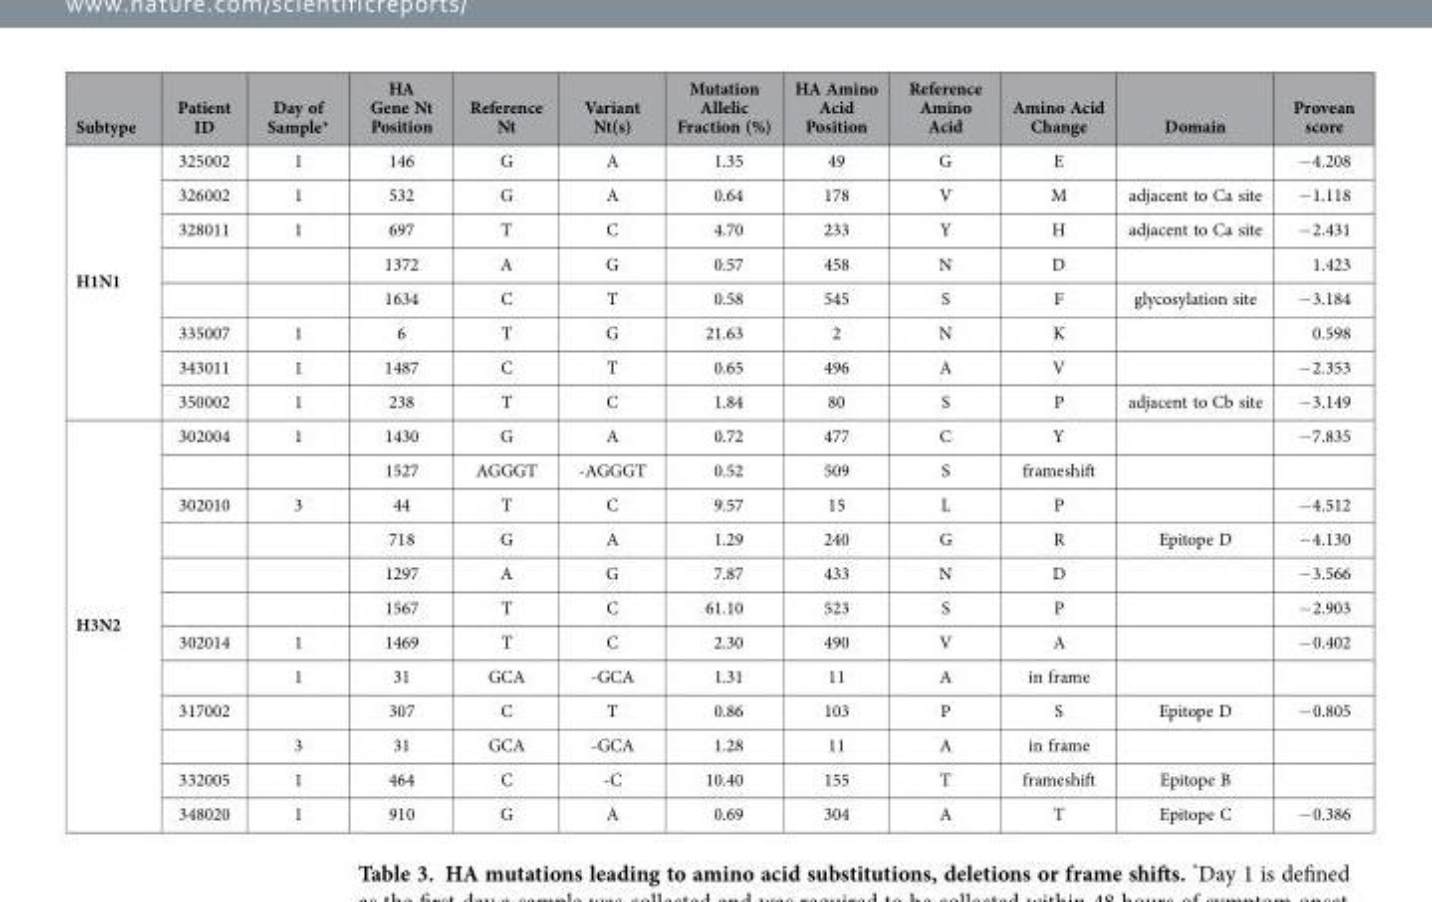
<table><thead><tr><td>Subtype</td><td>Patient ID</td><td>Day of Sample*</td><td>HA Gene Nt Position</td><td>Reference Nt</td><td>Variant Nt(s)</td><td>Mutation Allelic Fraction (%)</td><td>HA Amino Acid Position</td><td>Reference Amino Acid</td><td>Amino Acid Change</td><td>Domain</td><td>Provean score</td></tr></thead><tbody><tr><td rowspan="8">H1N1</td><td>325002</td><td>1</td><td>146</td><td>G</td><td>A</td><td>1.35</td><td>49</td><td>G</td><td>E</td><td></td><td>− 4.208</td></tr><tr><td>326002</td><td>1</td><td>532</td><td>G</td><td>A</td><td>0.64</td><td>178</td><td>V</td><td>M</td><td>adjacent to Ca site</td><td>− 1.118</td></tr><tr><td>328011</td><td>1</td><td>697</td><td>T</td><td>C</td><td>4.70</td><td>233</td><td>Y</td><td>H</td><td>adjacent to Ca site</td><td>− 2.431</td></tr><tr><td></td><td></td><td>1372</td><td>A</td><td>G</td><td>0.57</td><td>458</td><td>N</td><td>D</td><td></td><td>1.423</td></tr><tr><td></td><td></td><td>1634</td><td>C</td><td>T</td><td>0.58</td><td>545</td><td>S</td><td>F</td><td>glycosylation site</td><td>− 3.184</td></tr><tr><td>335007</td><td>1</td><td>6</td><td>T</td><td>G</td><td>21.63</td><td>2</td><td>N</td><td>K</td><td></td><td>0.598</td></tr><tr><td>343011</td><td>1</td><td>1487</td><td>C</td><td>T</td><td>0.65</td><td>496</td><td>A</td><td>V</td><td></td><td>− 2.353</td></tr><tr><td>350002</td><td>1</td><td>238</td><td>T</td><td>C</td><td>1.84</td><td>80</td><td>S</td><td>P</td><td>adjacent to Cb site</td><td>− 3.149</td></tr><tr><td rowspan="12">H3N2</td><td>302004</td><td>1</td><td>1430</td><td>G</td><td>A</td><td>0.72</td><td>477</td><td>C</td><td>Y</td><td></td><td>− 7.835</td></tr><tr><td></td><td></td><td>1527</td><td>AGGGT</td><td>-AGGGT</td><td>0.52</td><td>509</td><td>S</td><td>frameshift</td><td></td><td></td></tr><tr><td>302010</td><td>3</td><td>44</td><td>T</td><td>C</td><td>9.57</td><td>15</td><td>L</td><td>P</td><td></td><td>− 4.512</td></tr><tr><td></td><td></td><td>718</td><td>G</td><td>A</td><td>1.29</td><td>240</td><td>G</td><td>R</td><td>Epitope D</td><td>− 4.130</td></tr><tr><td></td><td></td><td>1297</td><td>A</td><td>G</td><td>7.87</td><td>433</td><td>N</td><td>D</td><td></td><td>− 3.566</td></tr><tr><td></td><td></td><td>1567</td><td>T</td><td>C</td><td>61.10</td><td>523</td><td>S</td><td>P</td><td></td><td>− 2.903</td></tr><tr><td>302014</td><td>1</td><td>1469</td><td>T</td><td>C</td><td>2.30</td><td>490</td><td>V</td><td>A</td><td></td><td>− 0.402</td></tr><tr><td></td><td>1</td><td>31</td><td>GCA</td><td>-GCA</td><td>1.31</td><td>11</td><td>A</td><td>in frame</td><td></td><td></td></tr><tr><td>317002</td><td></td><td>307</td><td>C</td><td>T</td><td>0.86</td><td>103</td><td>P</td><td>S</td><td>Epitope D</td><td>− 0.805</td></tr><tr><td></td><td>3</td><td>31</td><td>GCA</td><td>-GCA</td><td>1.28</td><td>11</td><td>A</td><td>in frame</td><td></td><td></td></tr><tr><td>332005</td><td>1</td><td>464</td><td>C</td><td>-C</td><td>10.40</td><td>155</td><td>T</td><td>frameshift</td><td>Epitope B</td><td></td></tr><tr><td>348020</td><td>1</td><td>910</td><td>G</td><td>A</td><td>0.69</td><td>304</td><td>A</td><td>T</td><td>Epitope C</td><td>− 0.386</td></tr></tbody></table>